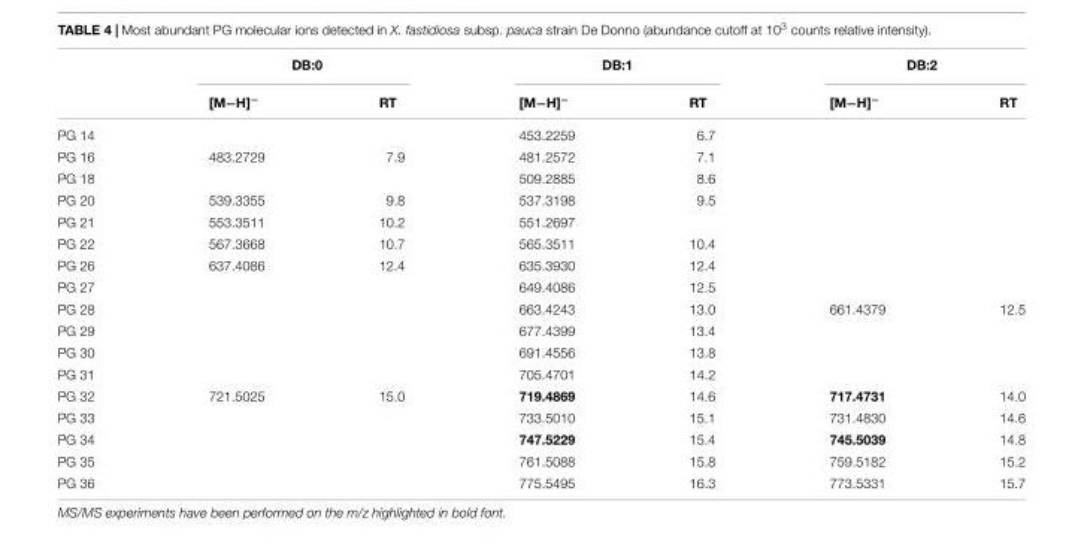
<table><thead><tr><td rowspan="2"></td><td colspan="2">DB:0</td><td colspan="2">DB:1</td><td colspan="2">DB:2</td></tr><tr><td>[M−H]<sup>−</sup></td><td>RT</td><td>[M−H]<sup>−</sup></td><td>RT</td><td>[M−H]<sup>−</sup></td><td>RT</td></tr></thead><tbody><tr><td>PG 14</td><td></td><td></td><td>453.2259</td><td>6.7</td><td></td><td></td></tr><tr><td>PG 16</td><td>483.2729</td><td>7.9</td><td>481.2572</td><td>7.1</td><td></td><td></td></tr><tr><td>PG 18</td><td></td><td></td><td>509.2885</td><td>8.6</td><td></td><td></td></tr><tr><td>PG 20</td><td>539.3355</td><td>9.8</td><td>537.3198</td><td>9.5</td><td></td><td></td></tr><tr><td>PG 21</td><td>553.3511</td><td>10.2</td><td>551.2697</td><td></td><td></td><td></td></tr><tr><td>PG 22</td><td>567.3668</td><td>10.7</td><td>565.3511</td><td>10.4</td><td></td><td></td></tr><tr><td>PG 26</td><td>637.4086</td><td>12.4</td><td>635.3930</td><td>12.4</td><td></td><td></td></tr><tr><td>PG 27</td><td></td><td></td><td>649.4086</td><td>12.5</td><td></td><td></td></tr><tr><td>PG 28</td><td></td><td></td><td>663.4243</td><td>13.0</td><td>661.4379</td><td>12.5</td></tr><tr><td>PG 29</td><td></td><td></td><td>677.4399</td><td>13.4</td><td></td><td></td></tr><tr><td>PG 30</td><td></td><td></td><td>691.4556</td><td>13.8</td><td></td><td></td></tr><tr><td>PG 31</td><td></td><td></td><td>705.4701</td><td>14.2</td><td></td><td></td></tr><tr><td>PG 32</td><td>721.5025</td><td>15.0</td><td>719.4869</td><td>14.6</td><td>717.4731</td><td>14.0</td></tr><tr><td>PG 33</td><td></td><td></td><td>733.5010</td><td>15.1</td><td>731.4830</td><td>14.6</td></tr><tr><td>PG 34</td><td></td><td></td><td>747.5229</td><td>15.4</td><td>745.5039</td><td>14.8</td></tr><tr><td>PG 35</td><td></td><td></td><td>761.5088</td><td>15.8</td><td>759.5182</td><td>15.2</td></tr><tr><td>PG 36</td><td></td><td></td><td>775.5495</td><td>16.3</td><td>773.5331</td><td>15.7</td></tr></tbody></table>